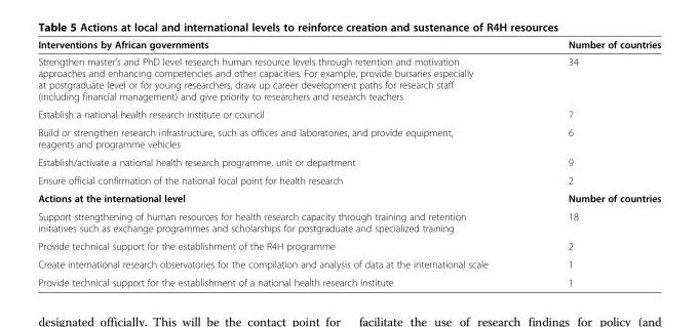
<table><thead><tr><td>Interventions by African governments</td><td>Number of countries</td></tr></thead><tbody><tr><td>Strengthen master’s and PhD level research human resource levels through retention and motivation approaches and enhancing competencies and other capacities. For example, provide bursaries especially at postgraduate level or for young researchers, draw up career development paths for research staff (including financial management) and give priority to researchers and research teachers</td><td>34</td></tr><tr><td>Establish a national health research institute or council</td><td>7</td></tr><tr><td>Build or strengthen research infrastructure, such as offices and laboratories, and provide equipment, reagents and programme vehicles</td><td>6</td></tr><tr><td>Establish/activate a national health research programme, unit or department</td><td>9</td></tr><tr><td>Ensure official confirmation of the national focal point for health research</td><td>2</td></tr><tr><td>Actions at the international level</td><td>Number of countries</td></tr><tr><td>Support strengthening of human resources for health research capacity through training and retention initiatives such as exchange programmes and scholarships for postgraduate and specialized training</td><td>18</td></tr><tr><td>Provide technical support for the establishment of the R4H programme</td><td>2</td></tr><tr><td>Create international research observatories for the compilation and analysis of data at the international scale</td><td>1</td></tr><tr><td>Provide technical support for the establishment of a national health research institute</td><td>1</td></tr></tbody></table>